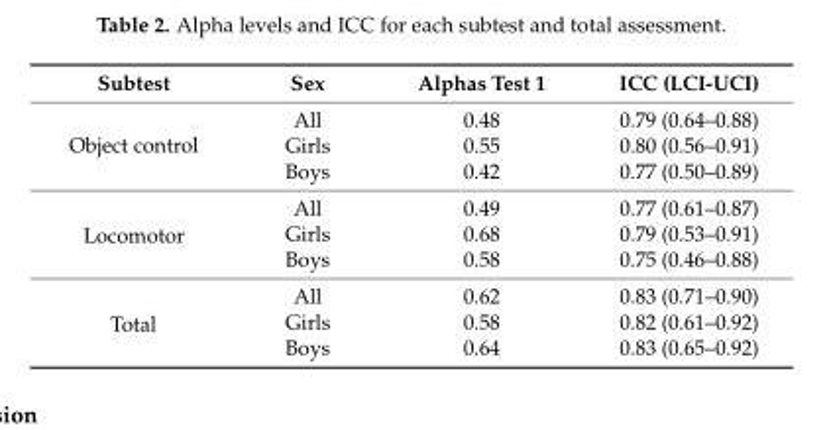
<table><thead><tr><td>Subtest</td><td>Sex</td><td>Alphas Test 1</td><td>ICC (LCI-UCI)</td></tr></thead><tbody><tr><td rowspan="3">Object control</td><td>All</td><td>0.48</td><td>0.79 (0.64–0.88)</td></tr><tr><td>Girls</td><td>0.55</td><td>0.80 (0.56–0.91)</td></tr><tr><td>Boys</td><td>0.42</td><td>0.77 (0.50–0.89)</td></tr><tr><td rowspan="3">Locomotor</td><td>All</td><td>0.49</td><td>0.77 (0.61–0.87)</td></tr><tr><td>Girls</td><td>0.68</td><td>0.79 (0.53–0.91)</td></tr><tr><td>Boys</td><td>0.58</td><td>0.75 (0.46–0.88)</td></tr><tr><td rowspan="3">Total</td><td>All</td><td>0.62</td><td>0.83 (0.71–0.90)</td></tr><tr><td>Girls</td><td>0.58</td><td>0.82 (0.61–0.92)</td></tr><tr><td>Boys</td><td>0.64</td><td>0.83 (0.65–0.92)</td></tr></tbody></table>